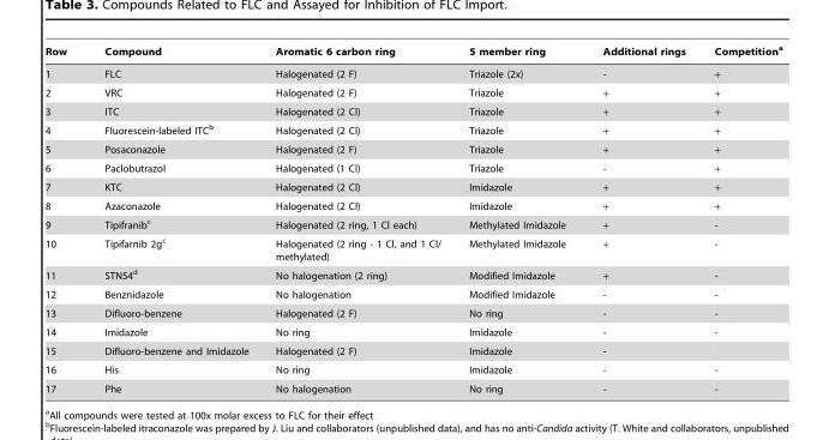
<table><thead><tr><td>Row</td><td>Compound</td><td>Aromatic 6 carbon ring</td><td>5 member ring</td><td>Additional rings</td><td>Competition<sup>a</sup></td></tr></thead><tbody><tr><td>1</td><td>FLC</td><td>Halogenated (2 F)</td><td>Triazole (2x)</td><td>-</td><td>+</td></tr><tr><td>2</td><td>VRC</td><td>Halogenated (2 F)</td><td>Triazole</td><td>+</td><td>+</td></tr><tr><td>3</td><td>ITC</td><td>Halogenated (2 Cl)</td><td>Triazole</td><td>+</td><td>+</td></tr><tr><td>4</td><td>Fluorescein-labeled ITC<sup>b</sup></td><td>Halogenated (2 Cl)</td><td>Triazole</td><td>+</td><td>+</td></tr><tr><td>5</td><td>Posaconazole</td><td>Halogenated (2 F)</td><td>Triazole</td><td>+</td><td>+</td></tr><tr><td>6</td><td>Paclobutrazol</td><td>Halogenated (1 Cl)</td><td>Triazole</td><td>-</td><td>+</td></tr><tr><td>7</td><td>KTC</td><td>Halogenated (2 Cl)</td><td>Imidazole</td><td>+</td><td>+</td></tr><tr><td>8</td><td>Azaconazole</td><td>Halogenated (2 Cl)</td><td>Imidazole</td><td>+</td><td>+</td></tr><tr><td>9</td><td>Tipifranib<sup>c</sup></td><td>Halogenated (2 ring, 1 Cl each)</td><td>Methylated Imidazole</td><td>+</td><td>-</td></tr><tr><td>10</td><td>Tipifarnib 2g<sup>c</sup></td><td>Halogenated (2 ring - 1 Cl, and 1 Cl/ methylated)</td><td>Methylated Imidazole</td><td>+</td><td>-</td></tr><tr><td>11</td><td>STN54<sup>d</sup></td><td>No halogenation (2 ring)</td><td>Modified Imidazole</td><td>+</td><td>-</td></tr><tr><td>12</td><td>Benznidazole</td><td>No halogenation</td><td>Modified Imidazole</td><td>-</td><td>-</td></tr><tr><td>13</td><td>Difluoro-benzene</td><td>Halogenated (2 F)</td><td>No ring</td><td>-</td><td>-</td></tr><tr><td>14</td><td>Imidazole</td><td>No ring</td><td>Imidazole</td><td>-</td><td>-</td></tr><tr><td>15</td><td>Difluoro-benzene and Imidazole</td><td>Halogenated (2 F)</td><td>Imidazole</td><td>-</td><td></td></tr><tr><td>16</td><td>His</td><td>No ring</td><td>Imidazole</td><td>-</td><td>-</td></tr><tr><td>17</td><td>Phe</td><td>No halogenation</td><td>No ring</td><td>-</td><td>-</td></tr></tbody></table>